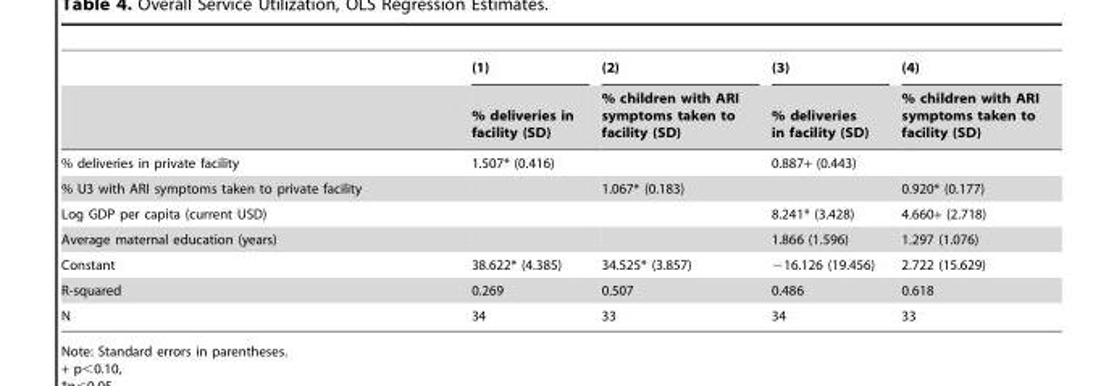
<table><thead><tr><td rowspan="2"></td><td rowspan="2">(1) % deliveries in facility (SD)</td><td rowspan="2">(2) % children with ARI symptoms taken to facility (SD)</td><td rowspan="2">(3) % deliveries in facility (SD)</td><td rowspan="2">(4) % children with ARI symptoms taken to facility (SD)</td></tr><tr></tr></thead><tbody><tr><td>% deliveries in private facility</td><td>1.507* (0.416)</td><td></td><td>0.887+ (0.443)</td><td></td></tr><tr><td>% U3 with ARI symptoms taken to private facility</td><td></td><td>1.067* (0.183)</td><td></td><td>0.920* (0.177)</td></tr><tr><td>Log GDP per capita (current USD)</td><td></td><td></td><td>8.241* (3.428)</td><td>4.660+ (2.718)</td></tr><tr><td>Average maternal education (years)</td><td></td><td></td><td>1.866 (1.596)</td><td>1.297 (1.076)</td></tr><tr><td>Constant</td><td>38.622* (4.385)</td><td>34.525* (3.857)</td><td>−16.126 (19.456)</td><td>2.722 (15.629)</td></tr><tr><td>R-squared</td><td>0.269</td><td>0.507</td><td>0.486</td><td>0.618</td></tr><tr><td>N</td><td>34</td><td>33</td><td>34</td><td>33</td></tr></tbody></table>